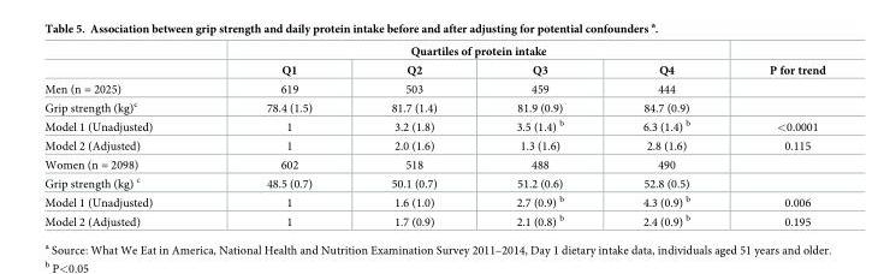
<table><thead><tr><td rowspan="2"></td><td colspan="4">Quartiles of protein intake</td><td rowspan="2">P for trend</td></tr><tr><td>Q1</td><td>Q2</td><td>Q3</td><td>Q4</td></tr></thead><tbody><tr><td>Men (n = 2025)</td><td>619</td><td>503</td><td>459</td><td>444</td><td></td></tr><tr><td>Grip strength (kg)<sup>c</sup></td><td>78.4 (1.5)</td><td>81.7 (1.4)</td><td>81.9 (0.9)</td><td>84.7 (0.9)</td><td></td></tr><tr><td>Model 1 (Unadjusted)</td><td>1</td><td>3.2 (1.8)</td><td>3.5 (1.4) <sup>b</sup></td><td>6.3 (1.4) <sup>b</sup></td><td>&lt;0.0001</td></tr><tr><td>Model 2 (Adjusted)</td><td>1</td><td>2.0 (1.6)</td><td>1.3 (1.6)</td><td>2.8 (1.6)</td><td>0.115</td></tr><tr><td>Women (n = 2098)</td><td>602</td><td>518</td><td>488</td><td>490</td><td></td></tr><tr><td>Grip strength (kg) <sup>c</sup></td><td>48.5 (0.7)</td><td>50.1 (0.7)</td><td>51.2 (0.6)</td><td>52.8 (0.5)</td><td></td></tr><tr><td>Model 1 (Unadjusted)</td><td>1</td><td>1.6 (1.0)</td><td>2.7 (0.9) <sup>b</sup></td><td>4.3 (0.9) <sup>b</sup></td><td>0.006</td></tr><tr><td>Model 2 (Adjusted)</td><td>1</td><td>1.7 (0.9)</td><td>2.1 (0.8) <sup>b</sup></td><td>2.4 (0.9) <sup>b</sup></td><td>0.195</td></tr></tbody></table>